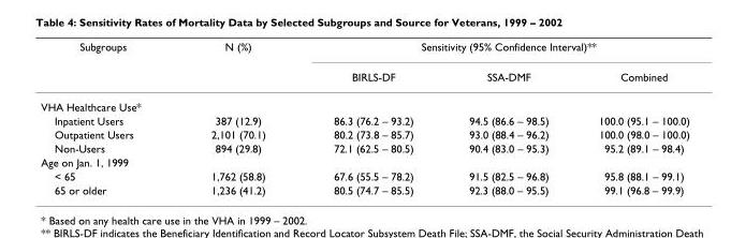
<table><thead><tr><td rowspan="2">Subgroups</td><td rowspan="2">N (%)</td><td colspan="3">Sensitivity (95% Confidence Interval)**</td></tr><tr><td>BIRLS-DF</td><td>SSA-DMF</td><td>Combined</td></tr></thead><tbody><tr><td colspan="5">VHA Healthcare Use*</td></tr><tr><td>Inpatient Users</td><td>387 (12.9)</td><td>86.3 (76.2 – 93.2)</td><td>94.5 (86.6 – 98.5)</td><td>100.0 (95.1 – 100.0)</td></tr><tr><td>Outpatient Users</td><td>2,101 (70.1)</td><td>80.2 (73.8 – 85.7)</td><td>93.0 (88.4 – 96.2)</td><td>100.0 (98.0 – 100.0)</td></tr><tr><td>Non-Users</td><td>894 (29.8)</td><td>72.1 (62.5 – 80.5)</td><td>90.4 (83.0 – 95.3)</td><td>95.2 (89.1 – 98.4)</td></tr><tr><td colspan="5">Age on Jan. 1, 1999</td></tr><tr><td>&lt; 65</td><td>1,762 (58.8)</td><td>67.6 (55.5 – 78.2)</td><td>91.5 (82.5 – 96.8)</td><td>95.8 (88.1 – 99.1)</td></tr><tr><td>65 or older</td><td>1,236 (41.2)</td><td>80.5 (74.7 – 85.5)</td><td>92.3 (88.0 – 95.5)</td><td>99.1 (96.8 – 99.9)</td></tr></tbody></table>